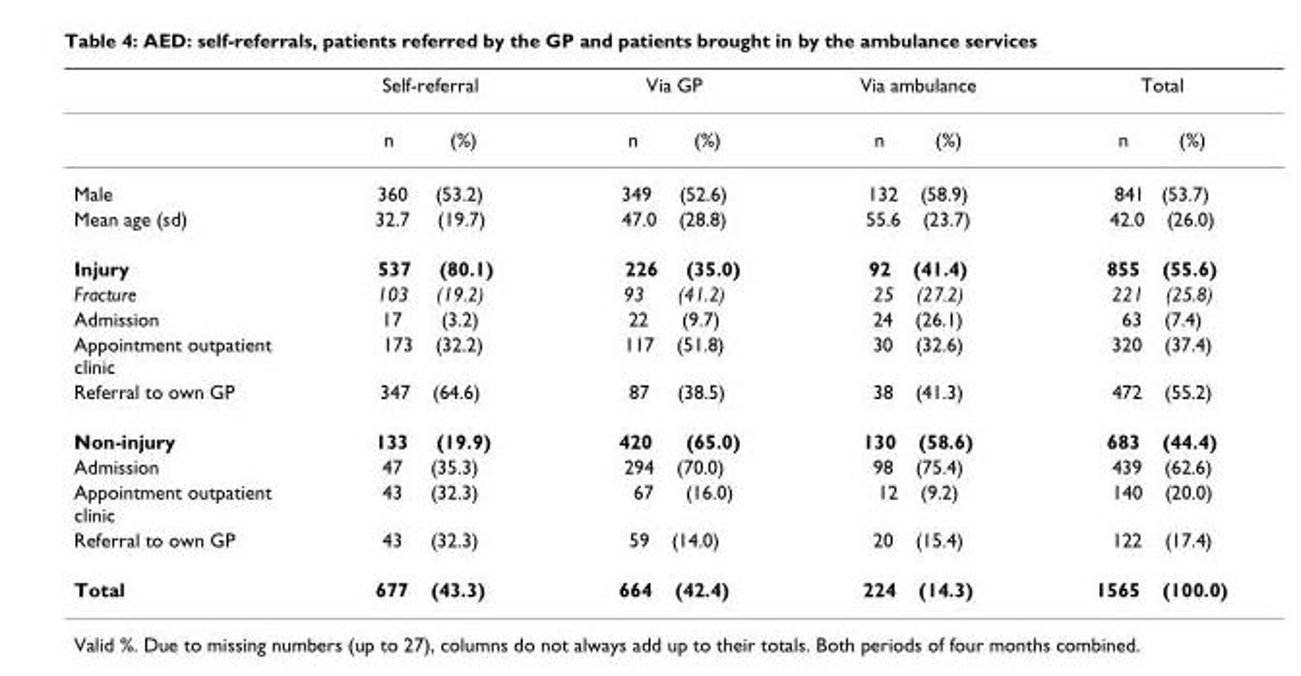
<table><thead><tr><td></td><td>Self-referral</td><td>Via GP</td><td>Via ambulance</td><td>Total</td></tr></thead><tbody><tr><td></td><td>n (%)</td><td>n (%)</td><td>n (%)</td><td>n (%)</td></tr><tr><td>Male</td><td>360 (53.2)</td><td>349 (52.6)</td><td>132 (58.9)</td><td>841 (53.7)</td></tr><tr><td>Mean age (sd)</td><td>32.7 (19.7)</td><td>47.0 (28.8)</td><td>55.6 (23.7)</td><td>42.0 (26.0)</td></tr><tr><td>Injury</td><td>537 (80.1)</td><td>226 (35.0)</td><td>92 (41.4)</td><td>855 (55.6)</td></tr><tr><td>Fracture</td><td>103 (19.2)</td><td>93 (41.2)</td><td>25 (27.2)</td><td>221 (25.8)</td></tr><tr><td>Admission</td><td>17 (3.2)</td><td>22 (9.7)</td><td>24 (26.1)</td><td>63 (7.4)</td></tr><tr><td>Appointment outpatient clinic</td><td>173 (32.2)</td><td>117 (51.8)</td><td>30 (32.6)</td><td>320 (37.4)</td></tr><tr><td>Referral to own GP</td><td>347 (64.6)</td><td>87 (38.5)</td><td>38 (41.3)</td><td>472 (55.2)</td></tr><tr><td>Non-injury</td><td>133 (19.9)</td><td>420 (65.0)</td><td>130 (58.6)</td><td>683 (44.4)</td></tr><tr><td>Admission</td><td>47 (35.3)</td><td>294 (70.0)</td><td>98 (75.4)</td><td>439 (62.6)</td></tr><tr><td>Appointment outpatient clinic</td><td>43 (32.3)</td><td>67 (16.0)</td><td>12 (9.2)</td><td>140 (20.0)</td></tr><tr><td>Referral to own GP</td><td>43 (32.3)</td><td>59 (14.0)</td><td>20 (15.4)</td><td>122 (17.4)</td></tr><tr><td>Total</td><td>677 (43.3)</td><td>664 (42.4)</td><td>224 (14.3)</td><td>1565 (100.0)</td></tr></tbody></table>